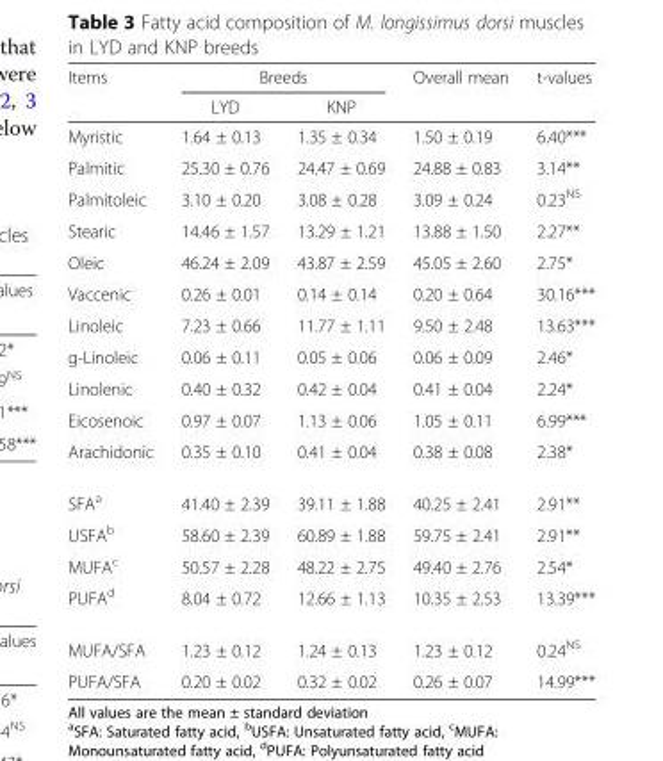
<table><thead><tr><td rowspan="2">Items</td><td colspan="2">Breeds</td><td rowspan="2">Overall mean</td><td rowspan="2">t-values</td></tr><tr><td>LYD</td><td>KNP</td></tr></thead><tbody><tr><td>Myristic</td><td>1.64 ± 0.13</td><td>1.35 ± 0.34</td><td>1.50 ± 0.19</td><td>6.40***</td></tr><tr><td>Palmitic</td><td>25.30 ± 0.76</td><td>24.47 ± 0.69</td><td>24.88 ± 0.83</td><td>3.14**</td></tr><tr><td>Palmitoleic</td><td>3.10 ± 0.20</td><td>3.08 ± 0.28</td><td>3.09 ± 0.24</td><td>0.23<sup>NS</sup></td></tr><tr><td>Stearic</td><td>14.46 ± 1.57</td><td>13.29 ± 1.21</td><td>13.88 ± 1.50</td><td>2.27**</td></tr><tr><td>Oleic</td><td>46.24 ± 2.09</td><td>43.87 ± 2.59</td><td>45.05 ± 2.60</td><td>2.75*</td></tr><tr><td>Vaccenic</td><td>0.26 ± 0.01</td><td>0.14 ± 0.14</td><td>0.20 ± 0.64</td><td>30.16***</td></tr><tr><td>Linoleic</td><td>7.23 ± 0.66</td><td>11.77 ± 1.11</td><td>9.50 ± 2.48</td><td>13.63***</td></tr><tr><td>g-Linoleic</td><td>0.06 ± 0.11</td><td>0.05 ± 0.06</td><td>0.06 ± 0.09</td><td>2.46*</td></tr><tr><td>Linolenic</td><td>0.40 ± 0.32</td><td>0.42 ± 0.04</td><td>0.41 ± 0.04</td><td>2.24*</td></tr><tr><td>Eicosenoic</td><td>0.97 ± 0.07</td><td>1.13 ± 0.06</td><td>1.05 ± 0.11</td><td>6.99***</td></tr><tr><td>Arachidonic</td><td>0.35 ± 0.10</td><td>0.41 ± 0.04</td><td>0.38 ± 0.08</td><td>2.38*</td></tr><tr><td>SFA<sup>a</sup></td><td>41.40 ± 2.39</td><td>39.11 ± 1.88</td><td>40.25 ± 2.41</td><td>2.91**</td></tr><tr><td>USFA<sup>b</sup></td><td>58.60 ± 2.39</td><td>60.89 ± 1.88</td><td>59.75 ± 2.41</td><td>2.91**</td></tr><tr><td>MUFA<sup>c</sup></td><td>50.57 ± 2.28</td><td>48.22 ± 2.75</td><td>49.40 ± 2.76</td><td>2.54*</td></tr><tr><td>PUFA<sup>d</sup></td><td>8.04 ± 0.72</td><td>12.66 ± 1.13</td><td>10.35 ± 2.53</td><td>13.39***</td></tr><tr><td>MUFA/SFA</td><td>1.23 ± 0.12</td><td>1.24 ± 0.13</td><td>1.23 ± 0.12</td><td>0.24<sup>NS</sup></td></tr><tr><td>PUFA/SFA</td><td>0.20 ± 0.02</td><td>0.32 ± 0.02</td><td>0.26 ± 0.07</td><td>14.99***</td></tr></tbody></table>